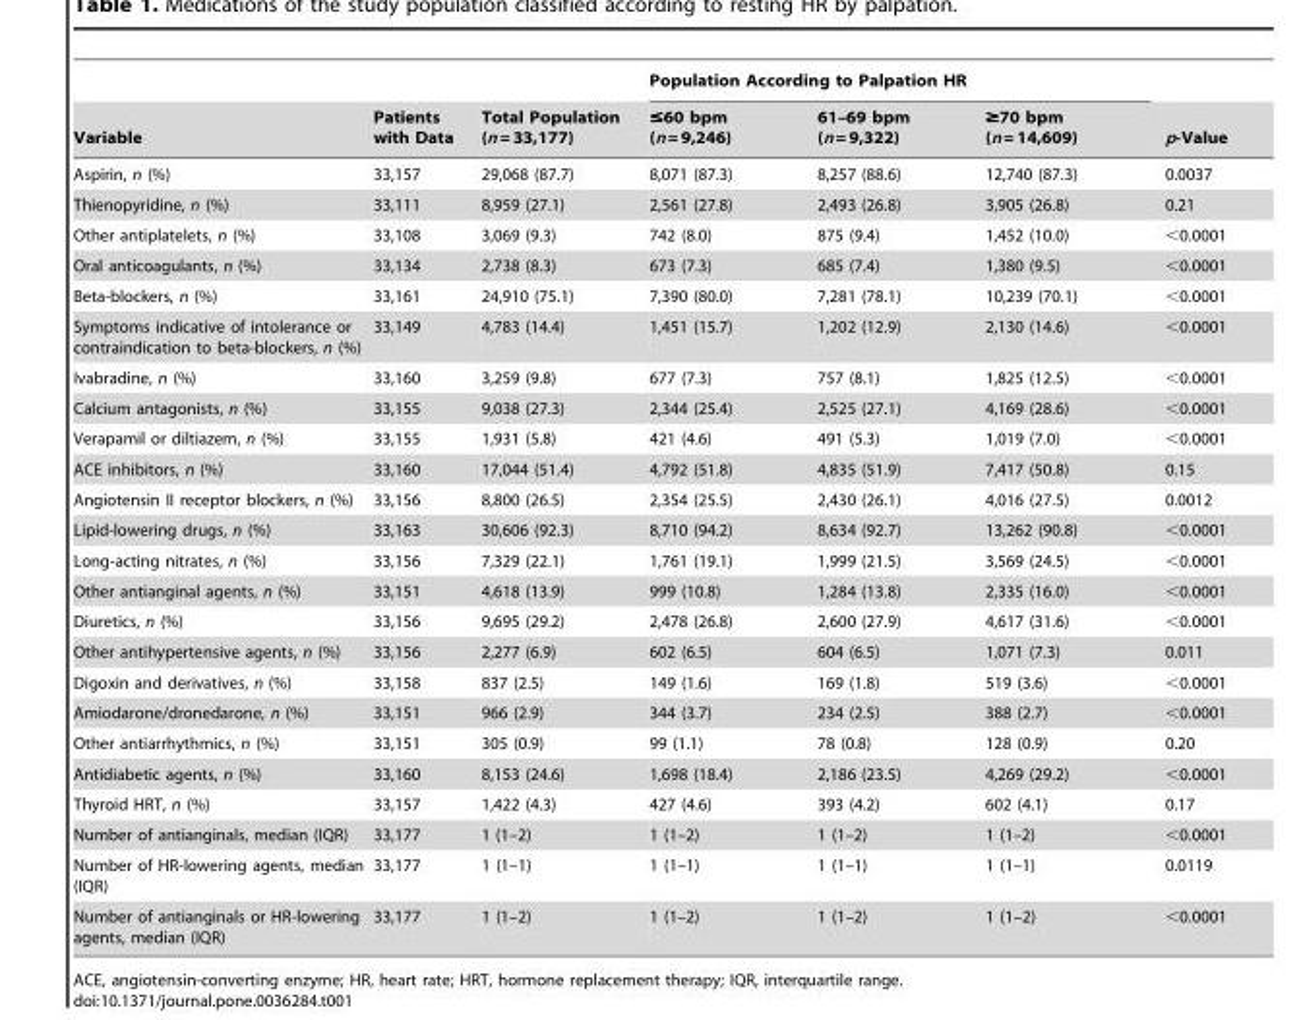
<table><thead><tr><td rowspan="2">Variable</td><td rowspan="2">Patients with Data</td><td rowspan="2">Total Population (n = 33,177)</td><td colspan="3">Population According to Palpation HR</td><td rowspan="2">p-Value</td></tr><tr><td>≤60 bpm (n = 9,246)</td><td>61–69 bpm (n = 9,322)</td><td>≥70 bpm (n = 14,609)</td></tr></thead><tbody><tr><td>Aspirin, n (%)</td><td>33,157</td><td>29,068 (87.7)</td><td>8,071 (87.3)</td><td>8,257 (88.6)</td><td>12,740 (87.3)</td><td>0.0037</td></tr><tr><td>Thienopyridine, n (%)</td><td>33,111</td><td>8,959 (27.1)</td><td>2,561 (27.8)</td><td>2,493 (26.8)</td><td>3,905 (26.8)</td><td>0.21</td></tr><tr><td>Other antiplatelets, n (%)</td><td>33,108</td><td>3,069 (9.3)</td><td>742 (8.0)</td><td>875 (9.4)</td><td>1,452 (10.0)</td><td>&lt;0.0001</td></tr><tr><td>Oral anticoagulants, n (%)</td><td>33,134</td><td>2,738 (8.3)</td><td>673 (7.3)</td><td>685 (7.4)</td><td>1,380 (9.5)</td><td>&lt;0.0001</td></tr><tr><td>Beta-blockers, n (%)</td><td>33,161</td><td>24,910 (75.1)</td><td>7,390 (80.0)</td><td>7,281 (78.1)</td><td>10,239 (70.1)</td><td>&lt;0.0001</td></tr><tr><td>Symptoms indicative of intolerance or contraindication to beta-blockers, n (%)</td><td>33,149</td><td>4,783 (14.4)</td><td>1,451 (15.7)</td><td>1,202 (12.9)</td><td>2,130 (14.6)</td><td>&lt;0.0001</td></tr><tr><td>Ivabradine, n (%)</td><td>33,160</td><td>3,259 (9.8)</td><td>677 (7.3)</td><td>757 (8.1)</td><td>1,825 (12.5)</td><td>&lt;0.0001</td></tr><tr><td>Calcium antagonists, n (%)</td><td>33,155</td><td>9,038 (27.3)</td><td>2,344 (25.4)</td><td>2,525 (27.1)</td><td>4,169 (28.6)</td><td>&lt;0.0001</td></tr><tr><td>Verapamil or diltiazem, n (%)</td><td>33,155</td><td>1,931 (5.8)</td><td>421 (4.6)</td><td>491 (5.3)</td><td>1,019 (7.0)</td><td>&lt;0.0001</td></tr><tr><td>ACE inhibitors, n (%)</td><td>33,160</td><td>17,044 (51.4)</td><td>4,792 (51.8)</td><td>4,835 (51.9)</td><td>7,417 (50.8)</td><td>0.15</td></tr><tr><td>Angiotensin II receptor blockers, n (%)</td><td>33,156</td><td>8,800 (26.5)</td><td>2,354 (25.5)</td><td>2,430 (26.1)</td><td>4,016 (27.5)</td><td>0.0012</td></tr><tr><td>Lipid-lowering drugs, n (%)</td><td>33,163</td><td>30,606 (92.3)</td><td>8,710 (94.2)</td><td>8,634 (92.7)</td><td>13,262 (90.8)</td><td>&lt;0.0001</td></tr><tr><td>Long-acting nitrates, n (%)</td><td>33,156</td><td>7,329 (22.1)</td><td>1,761 (19.1)</td><td>1,999 (21.5)</td><td>3,569 (24.5)</td><td>&lt;0.0001</td></tr><tr><td>Other antianginal agents, n (%)</td><td>33,151</td><td>4,618 (13.9)</td><td>999 (10.8)</td><td>1,284 (13.8)</td><td>2,335 (16.0)</td><td>&lt;0.0001</td></tr><tr><td>Diuretics, n (%)</td><td>33,156</td><td>9,695 (29.2)</td><td>2,478 (26.8)</td><td>2,600 (27.9)</td><td>4,617 (31.6)</td><td>&lt;0.0001</td></tr><tr><td>Other antihypertensive agents, n (%)</td><td>33,156</td><td>2,277 (6.9)</td><td>602 (6.5)</td><td>604 (6.5)</td><td>1,071 (7.3)</td><td>0.011</td></tr><tr><td>Digoxin and derivatives, n (%)</td><td>33,158</td><td>837 (2.5)</td><td>149 (1.6)</td><td>169 (1.8)</td><td>519 (3.6)</td><td>&lt;0.0001</td></tr><tr><td>Amiodarone/dronedarone, n (%)</td><td>33,151</td><td>966 (2.9)</td><td>344 (3.7)</td><td>234 (2.5)</td><td>388 (2.7)</td><td>&lt;0.0001</td></tr><tr><td>Other antiarrhythmics, n (%)</td><td>33,151</td><td>305 (0.9)</td><td>99 (1.1)</td><td>78 (0.8)</td><td>128 (0.9)</td><td>0.20</td></tr><tr><td>Antidiabetic agents, n (%)</td><td>33,160</td><td>8,153 (24.6)</td><td>1,698 (18.4)</td><td>2,186 (23.5)</td><td>4,269 (29.2)</td><td>&lt;0.0001</td></tr><tr><td>Thyroid HRT, n (%)</td><td>33,157</td><td>1,422 (4.3)</td><td>427 (4.6)</td><td>393 (4.2)</td><td>602 (4.1)</td><td>0.17</td></tr><tr><td>Number of antianginals, median (IQR)</td><td>33,177</td><td>1 (1–2)</td><td>1 (1–2)</td><td>1 (1–2)</td><td>1 (1–2)</td><td>&lt;0.0001</td></tr><tr><td>Number of HR-lowering agents, median (IQR)</td><td>33,177</td><td>1 (1–1)</td><td>1 (1–1)</td><td>1 (1–1)</td><td>1 (1–1)</td><td>0.0119</td></tr><tr><td>Number of antianginals or HR-lowering agents, median (IQR)</td><td>33,177</td><td>1 (1–2)</td><td>1 (1–2)</td><td>1 (1–2)</td><td>1 (1–2)</td><td>&lt;0.0001</td></tr></tbody></table>